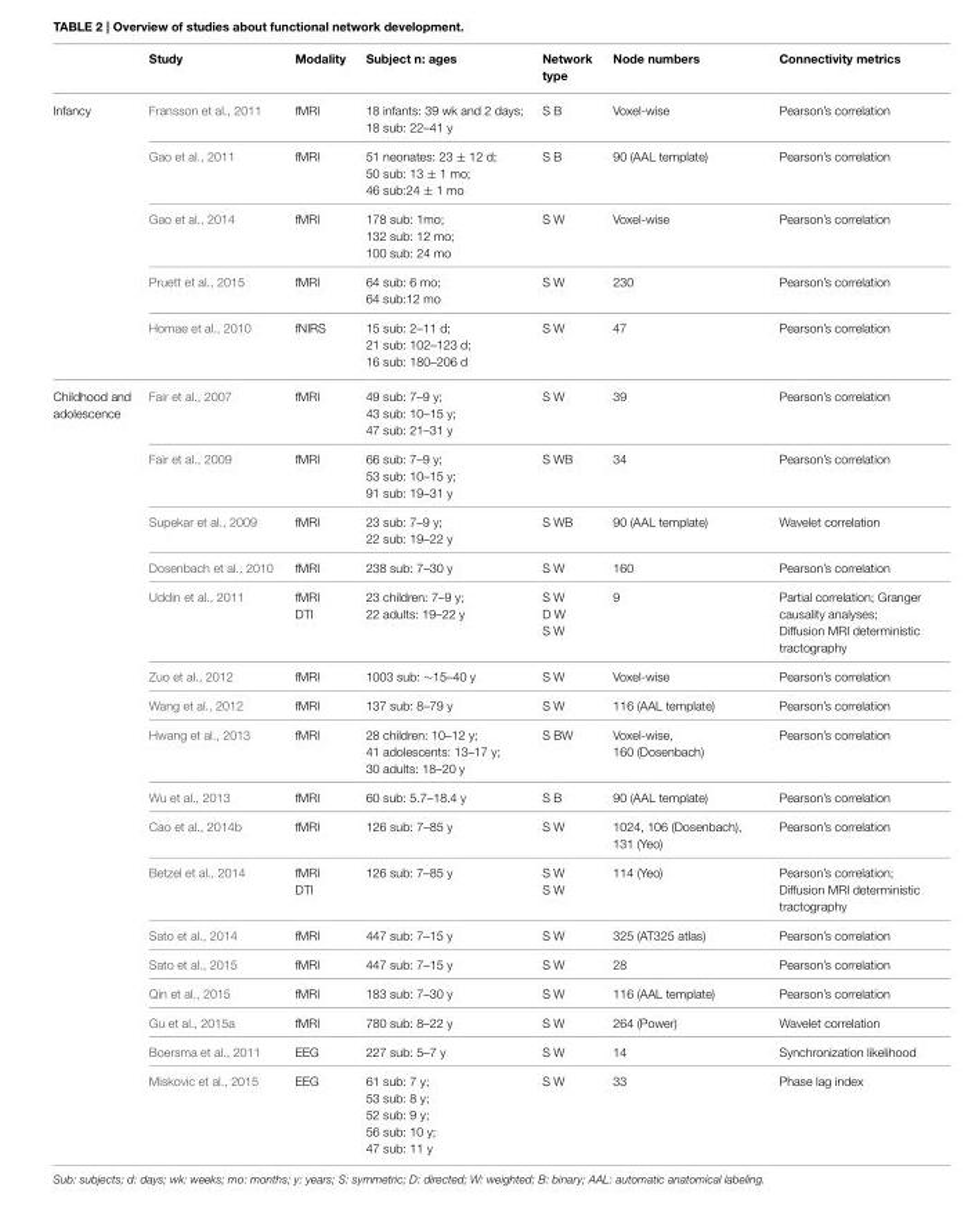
<table><thead><tr><td></td><td>Study</td><td>Modality</td><td>Subject n: ages</td><td>Network type</td><td>Node numbers</td><td>Connectivity metrics</td></tr></thead><tbody><tr><td rowspan="5">Infancy</td><td>Fransson et al., 2011</td><td>fMRI</td><td>18 infants: 39 wk and 2 days; 18 sub: 22–41 y</td><td>S B</td><td>Voxel-wise</td><td>Pearson’s correlation</td></tr><tr><td>Gao et al., 2011</td><td>fMRI</td><td>51 neonates: 23 ± 12 d; 50 sub: 13 ± 1 mo; 46 sub:24 ± 1 mo</td><td>S B</td><td>90 (AAL template)</td><td>Pearson’s correlation</td></tr><tr><td>Gao et al., 2014</td><td>fMRI</td><td>178 sub: 1mo; 132 sub: 12 mo; 100 sub: 24 mo</td><td>S W</td><td>Voxel-wise</td><td>Pearson’s correlation</td></tr><tr><td>Pruett et al., 2015</td><td>fMRI</td><td>64 sub: 6 mo; 64 sub:12 mo</td><td>S W</td><td>230</td><td>Pearson’s correlation</td></tr><tr><td>Homae et al., 2010</td><td>fNIRS</td><td>15 sub: 2–11 d; 21 sub: 102–123 d; 16 sub: 180–206 d</td><td>S W</td><td>47</td><td>Pearson’s correlation</td></tr><tr><td rowspan="17">Childhood and adolescence</td><td>Fair et al., 2007</td><td>fMRI</td><td>49 sub: 7–9 y; 43 sub: 10–15 y; 47 sub: 21–31 y</td><td>S W</td><td>39</td><td>Pearson’s correlation</td></tr><tr><td>Fair et al., 2009</td><td>fMRI</td><td>66 sub: 7–9 y; 53 sub: 10–15 y; 91 sub: 19–31 y</td><td>S WB</td><td>34</td><td>Pearson’s correlation</td></tr><tr><td>Supekar et al., 2009</td><td>fMRI</td><td>23 sub: 7–9 y; 22 sub: 19–22 y</td><td>S WB</td><td>90 (AAL template)</td><td>Wavelet correlation</td></tr><tr><td>Dosenbach et al., 2010</td><td>fMRI</td><td>238 sub: 7–30 y</td><td>S W</td><td>160</td><td>Pearson’s correlation</td></tr><tr><td>Uddin et al., 2011</td><td>fMRI DTI</td><td>23 children: 7–9 y; 22 adults: 19–22 y</td><td>S W D W S W</td><td>9</td><td>Partial correlation; Granger causality analyses; Diffusion MRI deterministic tractography</td></tr><tr><td>Zuo et al., 2012</td><td>fMRI</td><td>1003 sub: ∼15–40 y</td><td>S W</td><td>Voxel-wise</td><td>Pearson’s correlation</td></tr><tr><td>Wang et al., 2012</td><td>fMRI</td><td>137 sub: 8–79 y</td><td>S W</td><td>116 (AAL template)</td><td>Pearson’s correlation</td></tr><tr><td>Hwang et al., 2013</td><td>fMRI</td><td>28 children: 10–12 y; 41 adolescents: 13–17 y; 30 adults: 18–20 y</td><td>S BW</td><td>Voxel-wise, 160 (Dosenbach)</td><td>Pearson’s correlation</td></tr><tr><td>Wu et al., 2013</td><td>fMRI</td><td>60 sub: 5.7–18.4 y</td><td>S B</td><td>90 (AAL template)</td><td>Pearson’s correlation</td></tr><tr><td>Cao et al., 2014b</td><td>fMRI</td><td>126 sub: 7–85 y</td><td>S W</td><td>1024, 106 (Dosenbach), 131 (Yeo)</td><td>Pearson’s correlation</td></tr><tr><td>Betzel et al., 2014</td><td>fMRI DTI</td><td>126 sub: 7–85 y</td><td>S W S W</td><td>114 (Yeo)</td><td>Pearson’s correlation; Diffusion MRI deterministic tractography</td></tr><tr><td>Sato et al., 2014</td><td>fMRI</td><td>447 sub: 7–15 y</td><td>S W</td><td>325 (AT325 atlas)</td><td>Pearson’s correlation</td></tr><tr><td>Sato et al., 2015</td><td>fMRI</td><td>447 sub: 7–15 y</td><td>S W</td><td>28</td><td>Pearson’s correlation</td></tr><tr><td>Qin et al., 2015</td><td>fMRI</td><td>183 sub: 7–30 y</td><td>S W</td><td>116 (AAL template)</td><td>Pearson’s correlation</td></tr><tr><td>Gu et al., 2015a</td><td>fMRI</td><td>780 sub: 8–22 y</td><td>S W</td><td>264 (Power)</td><td>Wavelet correlation</td></tr><tr><td>Boersma et al., 2011</td><td>EEG</td><td>227 sub: 5–7 y</td><td>S W</td><td>14</td><td>Synchronization likelihood</td></tr><tr><td>Miskovic et al., 2015</td><td>EEG</td><td>61 sub: 7 y; 53 sub: 8 y; 52 sub: 9 y; 56 sub: 10 y; 47 sub: 11 y</td><td>S W</td><td>33</td><td>Phase lag index</td></tr></tbody></table>